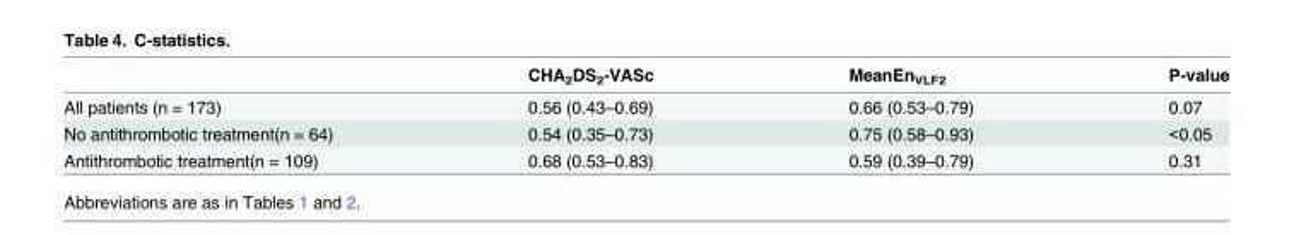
<table><thead><tr><td></td><td>CHA<sub>2</sub>DS<sub>2</sub>-VASc</td><td>MeanEn<sub>VLF2</sub></td><td>P-value</td></tr></thead><tbody><tr><td>All patients (n = 173)</td><td>0.56 (0.43–0.69)</td><td>0.66 (0.53–0.79)</td><td>0.07</td></tr><tr><td>No antithrombotic treatment(n = 64)</td><td>0.54 (0.35–0.73)</td><td>0.75 (0.58–0.93)</td><td>&lt;0.05</td></tr><tr><td>Antithrombotic treatment(n = 109)</td><td>0.68 (0.53–0.83)</td><td>0.59 (0.39–0.79)</td><td>0.31</td></tr></tbody></table>